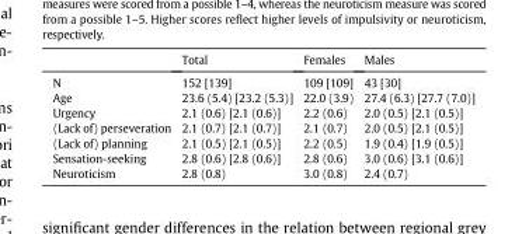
<table><thead><tr><td></td><td>Total</td><td>Females</td><td>Males</td></tr></thead><tbody><tr><td>N</td><td>152 [139]</td><td>109 [109]</td><td>43 [30]</td></tr><tr><td>Age</td><td>23.6 (5.4) [23.2 (5.3)]</td><td>22.0 (3.9)</td><td>27.4 (6.3) [27.7 (7.0)]</td></tr><tr><td>Urgency</td><td>2.1 (0.6) [2.1 (0.6)]</td><td>2.2 (0.6)</td><td>2.0 (0.5) [2.1 (0.5)]</td></tr><tr><td>(Lack of) perseveration</td><td>2.1 (0.7) [2.1 (0.7)]</td><td>2.1 (0.7)</td><td>2.0 (0.5) [2.1 (0.5)]</td></tr><tr><td>(Lack of) planning</td><td>2.1 (0.5) [2.1 (0.5)]</td><td>2.2 (0.5)</td><td>1.9 (0.4) [1.9 (0.5)]</td></tr><tr><td>Sensation-seeking</td><td>2.8 (0.6) [2.8 (0.6)]</td><td>2.8 (0.6)</td><td>3.0 (0.6) [3.1 (0.6)]</td></tr><tr><td>Neuroticism</td><td>2.8 (0.8)</td><td>3.0 (0.8)</td><td>2.4 (0.7)</td></tr></tbody></table>